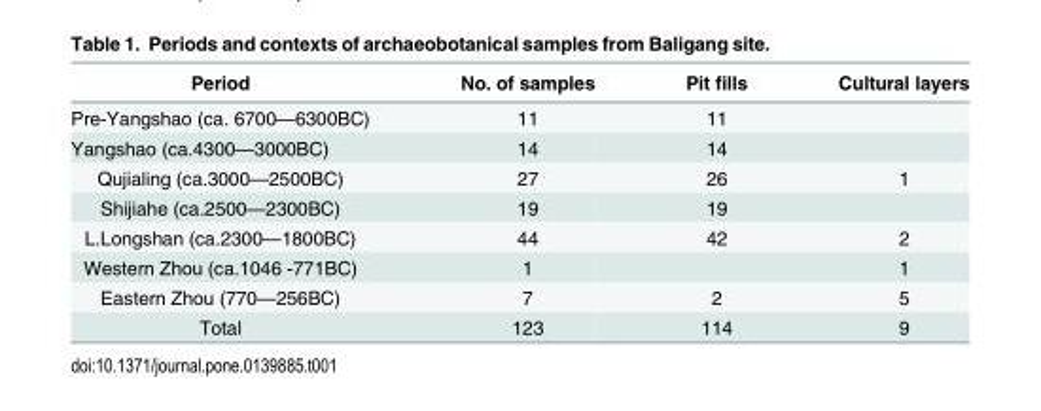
<table><thead><tr><td>Period</td><td>No. of samples</td><td>Pit fills</td><td>Cultural layers</td></tr></thead><tbody><tr><td>Pre-Yangshao (ca. 6700—6300BC)</td><td>11</td><td>11</td><td></td></tr><tr><td>Yangshao (ca.4300—3000BC)</td><td>14</td><td>14</td><td></td></tr><tr><td>Qujialing (ca.3000—2500BC)</td><td>27</td><td>26</td><td>1</td></tr><tr><td>Shijiahe (ca.2500—2300BC)</td><td>19</td><td>19</td><td></td></tr><tr><td>L.Longshan (ca.2300—1800BC)</td><td>44</td><td>42</td><td>2</td></tr><tr><td>Western Zhou (ca.1046 -771BC)</td><td>1</td><td></td><td>1</td></tr><tr><td>Eastern Zhou (770—256BC)</td><td>7</td><td>2</td><td>5</td></tr><tr><td>Total</td><td>123</td><td>114</td><td>9</td></tr></tbody></table>